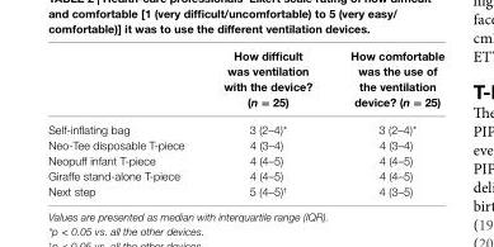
<table><thead><tr><td></td><td>how difficult was ventilation with the device? (n = 25)</td><td>how comfortable was the use of the ventilation device? (n = 25)</td></tr></thead><tbody><tr><td>Self-inflating bag</td><td>3 (2–4)*</td><td>3 (2–4)*</td></tr><tr><td>Neo-Tee disposable T-piece</td><td>4 (3–4)</td><td>4 (3–4)</td></tr><tr><td>Neopuff infant T-piece</td><td>4 (4–5)</td><td>4 (4–5)</td></tr><tr><td>Giraffe stand-alone T-piece</td><td>4 (4–5)</td><td>4 (4–5)</td></tr><tr><td>Next step</td><td>5 (4–5)<sup>†</sup></td><td>4 (3–5)</td></tr></tbody></table>